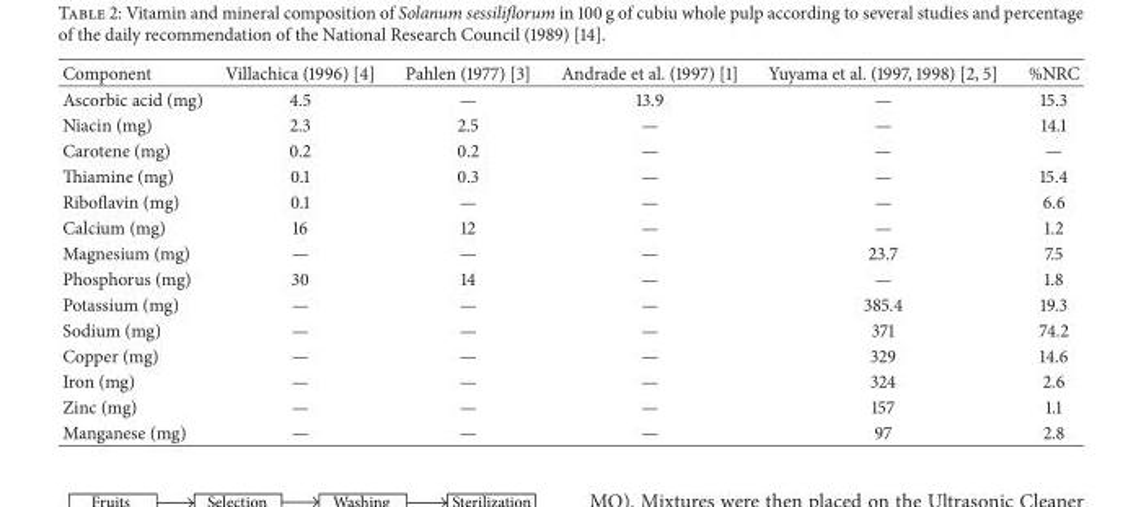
<table><thead><tr><td>Component</td><td>Villachica (1996) [4]</td><td>Pahlen (1977) [3]</td><td>Andrade et al. (1997) [1]</td><td>Yuyama et al. (1997, 1998) [2, 5]</td><td>%NRC</td></tr></thead><tbody><tr><td>Ascorbic acid (mg)</td><td>4.5</td><td>—</td><td>13.9</td><td>—</td><td>15.3</td></tr><tr><td>Niacin (mg)</td><td>2.3</td><td>2.5</td><td>—</td><td>—</td><td>14.1</td></tr><tr><td>Carotene (mg)</td><td>0.2</td><td>0.2</td><td>—</td><td>—</td><td>—</td></tr><tr><td>Thiamine (mg)</td><td>0.1</td><td>0.3</td><td>—</td><td>—</td><td>15.4</td></tr><tr><td>Riboflavin (mg)</td><td>0.1</td><td>—</td><td>—</td><td>—</td><td>6.6</td></tr><tr><td>Calcium (mg)</td><td>16</td><td>12</td><td>—</td><td>—</td><td>1.2</td></tr><tr><td>Magnesium (mg)</td><td>—</td><td>—</td><td>—</td><td>23.7</td><td>7.5</td></tr><tr><td>Phosphorus (mg)</td><td>30</td><td>14</td><td>—</td><td>—</td><td>1.8</td></tr><tr><td>Potassium (mg)</td><td>—</td><td>—</td><td>—</td><td>385.4</td><td>19.3</td></tr><tr><td>Sodium (mg)</td><td>—</td><td>—</td><td>—</td><td>371</td><td>74.2</td></tr><tr><td>Copper (mg)</td><td>—</td><td>—</td><td>—</td><td>329</td><td>14.6</td></tr><tr><td>Iron (mg)</td><td>—</td><td>—</td><td>—</td><td>324</td><td>2.6</td></tr><tr><td>Zinc (mg)</td><td>—</td><td>—</td><td>—</td><td>157</td><td>1.1</td></tr><tr><td>Manganese (mg)</td><td>—</td><td>—</td><td>—</td><td>97</td><td>2.8</td></tr></tbody></table>